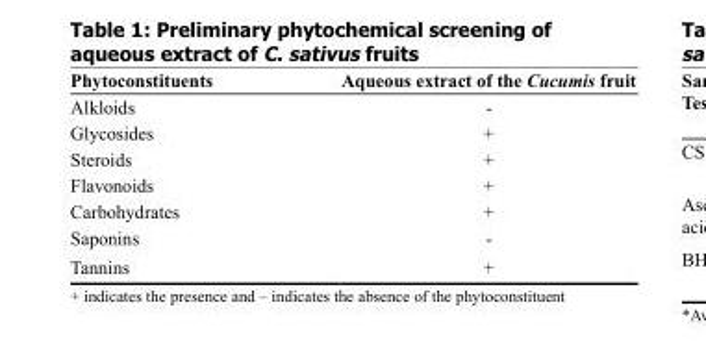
<table><thead><tr><td>Phytoconstituents</td><td>Aqueous extract of the Cucumis fruit</td></tr></thead><tbody><tr><td>Alkloids</td><td>-</td></tr><tr><td>Glycosides</td><td>+</td></tr><tr><td>Steroids</td><td>+</td></tr><tr><td>Flavonoids</td><td>+</td></tr><tr><td>Carbohydrates</td><td>+</td></tr><tr><td>Saponins</td><td>-</td></tr><tr><td>Tannins</td><td>+</td></tr></tbody></table>